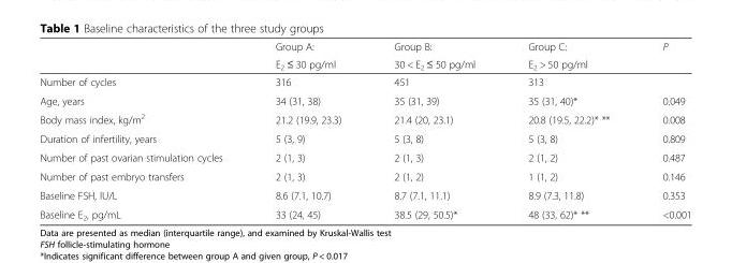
<table><thead><tr><td rowspan="2"></td><td rowspan="2">Group A: E<sub>2</sub> ≤ 30 pg/ml</td><td rowspan="2">Group B: 30 &lt; E<sub>2</sub> ≤ 50 pg/ml</td><td rowspan="2">Group C: E<sub>2</sub> &gt; 50 pg/ml</td><td rowspan="2">P</td></tr><tr></tr></thead><tbody><tr><td>Number of cycles</td><td>316</td><td>451</td><td>313</td><td></td></tr><tr><td>Age, years</td><td>34 (31, 38)</td><td>35 (31, 39)</td><td>35 (31, 40)*</td><td>0.049</td></tr><tr><td>Body mass index, kg/m<sup>2</sup></td><td>21.2 (19.9, 23.3)</td><td>21.4 (20, 23.1)</td><td>20.8 (19.5, 22.2)* **</td><td>0.008</td></tr><tr><td>Duration of infertility, years</td><td>5 (3, 9)</td><td>5 (3, 8)</td><td>5 (3, 8)</td><td>0.809</td></tr><tr><td>Number of past ovarian stimulation cycles</td><td>2 (1, 3)</td><td>2 (1, 3)</td><td>2 (1, 2)</td><td>0.487</td></tr><tr><td>Number of past embryo transfers</td><td>2 (1, 3)</td><td>2 (1, 2)</td><td>1 (1, 2)</td><td>0.146</td></tr><tr><td>Baseline FSH, IU/L</td><td>8.6 (7.1, 10.7)</td><td>8.7 (7.1, 11.1)</td><td>8.9 (7.3, 11.8)</td><td>0.353</td></tr><tr><td>Baseline E<sub>2</sub>, pg/mL</td><td>33 (24, 45)</td><td>38.5 (29, 50.5)*</td><td>48 (33, 62)* **</td><td>&lt;0.001</td></tr></tbody></table>